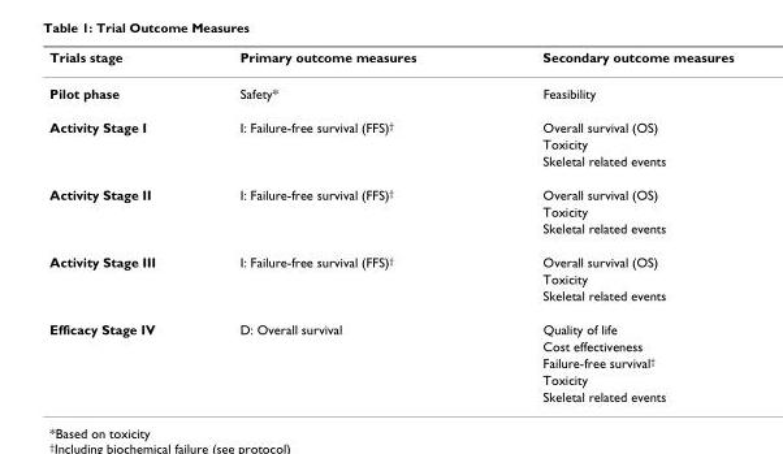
<table><thead><tr><td>Trials stage</td><td>Primary outcome measures</td><td>Secondary outcome measures</td></tr></thead><tbody><tr><td>Pilot phase</td><td>Safety*</td><td>Feasibility</td></tr><tr><td rowspan="3">Activity Stage I</td><td>I: Failure-free survival (FFS)<sup>†</sup></td><td>Overall survival (OS)</td></tr><tr><td></td><td>Toxicity</td></tr><tr><td></td><td>Skeletal related events</td></tr><tr><td rowspan="3">Activity Stage II</td><td>I: Failure-free survival (FFS)<sup>†</sup></td><td>Overall survival (OS)</td></tr><tr><td></td><td>Toxicity</td></tr><tr><td></td><td>Skeletal related events</td></tr><tr><td rowspan="3">Activity Stage III</td><td>I: Failure-free survival (FFS)<sup>†</sup></td><td>Overall survival (OS)</td></tr><tr><td></td><td>Toxicity</td></tr><tr><td></td><td>Skeletal related events</td></tr><tr><td rowspan="5">Efficacy Stage IV</td><td>D: Overall survival</td><td>Quality of life</td></tr><tr><td></td><td>Cost effectiveness</td></tr><tr><td></td><td>Failure-free survival<sup>†</sup></td></tr><tr><td></td><td>Toxicity</td></tr><tr><td></td><td>Skeletal related events</td></tr></tbody></table>